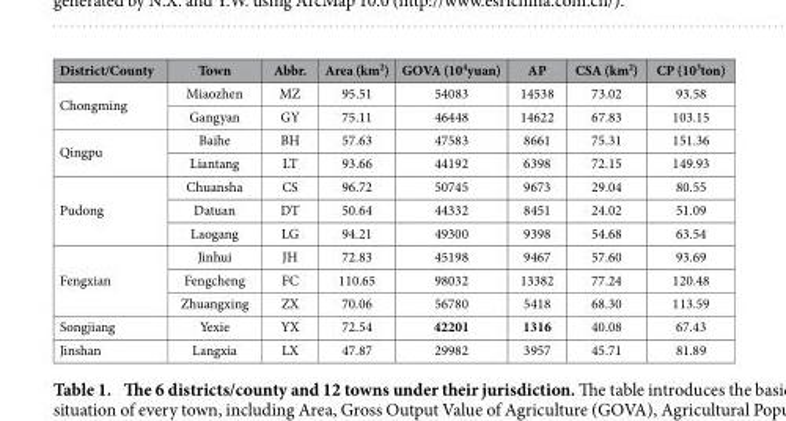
<table><thead><tr><td>District/County</td><td>Town</td><td>Abbr.</td><td>Area (km<sup>2</sup>)</td><td>GOVA (10<sup>4</sup>yuan)</td><td>AP</td><td>CSA (km<sup>2</sup>)</td><td>CP (10<sup>3</sup>ton)</td></tr></thead><tbody><tr><td rowspan="2">Chongming</td><td>Miaozhen</td><td>MZ</td><td>95.51</td><td>54083</td><td>14538</td><td>73.02</td><td>93.58</td></tr><tr><td>Gangyan</td><td>GY</td><td>75.11</td><td>46448</td><td>14622</td><td>67.83</td><td>103.15</td></tr><tr><td rowspan="2">Qingpu</td><td>Baihe</td><td>BH</td><td>57.63</td><td>47583</td><td>8661</td><td>75.31</td><td>151.36</td></tr><tr><td>Liantang</td><td>LT</td><td>93.66</td><td>44192</td><td>6398</td><td>72.15</td><td>149.93</td></tr><tr><td rowspan="3">Pudong</td><td>Chuansha</td><td>CS</td><td>96.72</td><td>50745</td><td>9673</td><td>29.04</td><td>80.55</td></tr><tr><td>Datuan</td><td>DT</td><td>50.64</td><td>44332</td><td>8451</td><td>24.02</td><td>51.09</td></tr><tr><td>Laogang</td><td>LG</td><td>94.21</td><td>49300</td><td>9398</td><td>54.68</td><td>63.54</td></tr><tr><td rowspan="3">Fengxian</td><td>Jinhui</td><td>JH</td><td>72.83</td><td>45198</td><td>9467</td><td>57.60</td><td>93.69</td></tr><tr><td>Fengcheng</td><td>FC</td><td>110.65</td><td>98032</td><td>13382</td><td>77.24</td><td>120.48</td></tr><tr><td>Zhuangxing</td><td>ZX</td><td>70.06</td><td>56780</td><td>5418</td><td>68.30</td><td>113.59</td></tr><tr><td>Songjiang</td><td>Yexie</td><td>YX</td><td>72.54</td><td>42201</td><td>1316</td><td>40.08</td><td>67.43</td></tr><tr><td>Jinshan</td><td>Langxia</td><td>LX</td><td>47.87</td><td>29982</td><td>3957</td><td>45.71</td><td>81.89</td></tr></tbody></table>